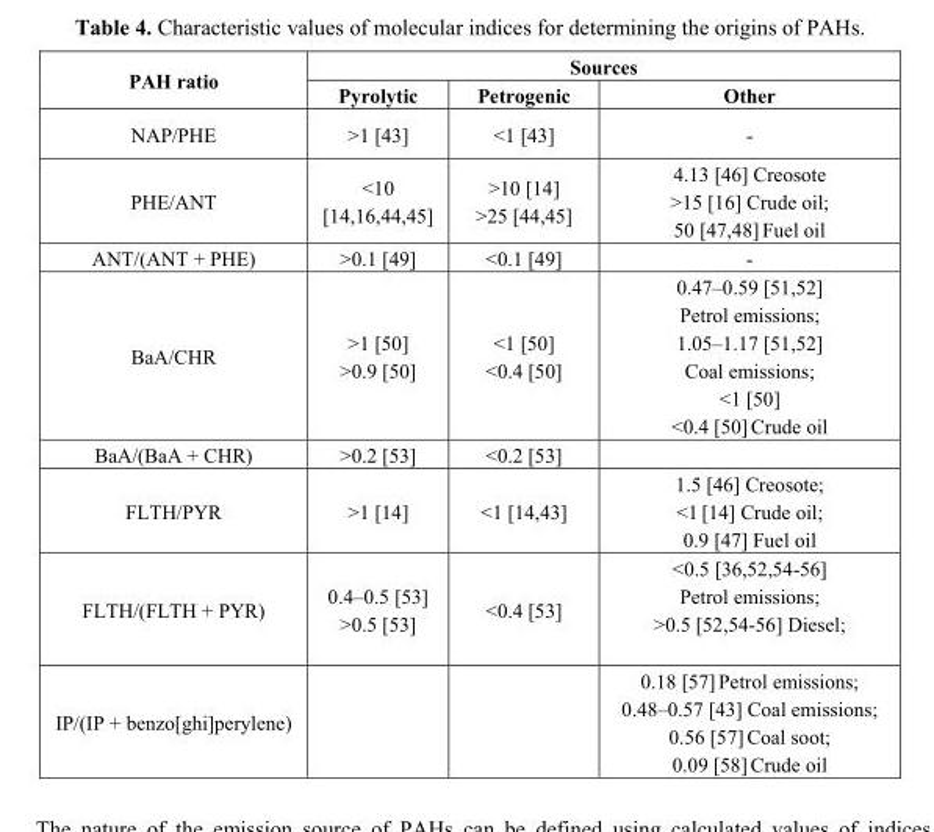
<table><thead><tr><td rowspan="2">PAH ratio</td><td colspan="3">Sources</td></tr><tr><td>Pyrolytic</td><td>Petrogenic</td><td>Other</td></tr></thead><tbody><tr><td>NAP/PHE</td><td>&gt;1 [43]</td><td>&lt;1 [43]</td><td>-</td></tr><tr><td>PHE/ANT</td><td>&lt;10 [14,16,44,45]</td><td>&gt;10 [14] &gt;25 [44,45]</td><td>4.13 [46] Creosote &gt;15 [16] Crude oil; 50 [47,48] Fuel oil</td></tr><tr><td>ANT/(ANT + PHE)</td><td>&gt;0.1 [49]</td><td>&lt;0.1 [49]</td><td>-</td></tr><tr><td>BaA/CHR</td><td>&gt;1 [50] &gt;0.9 [50]</td><td>&lt;1 [50] &lt;0.4 [50]</td><td>0.47–0.59 [51,52] Petrol emissions; 1.05–1.17 [51,52] Coal emissions; &lt;1 [50] &lt;0.4 [50] Crude oil</td></tr><tr><td>BaA/(BaA + CHR)</td><td>&gt;0.2 [53]</td><td>&lt;0.2 [53]</td><td></td></tr><tr><td>FLTH/PYR</td><td>&gt;1 [14]</td><td>&lt;1 [14,43]</td><td>1.5 [46] Creosote; &lt;1 [14] Crude oil; 0.9 [47] Fuel oil</td></tr><tr><td>FLTH/(FLTH + PYR)</td><td>0.4–0.5 [53] &gt;0.5 [53]</td><td>&lt;0.4 [53]</td><td>&lt;0.5 [36,52,54-56] Petrol emissions; &gt;0.5 [52,54-56] Diesel;</td></tr><tr><td>IP/(IP + benzo[ghi]perylene)</td><td></td><td></td><td>0.18 [57] Petrol emissions; 0.48–0.57 [43] Coal emissions; 0.56 [57] Coal soot; 0.09 [58] Crude oil</td></tr></tbody></table>